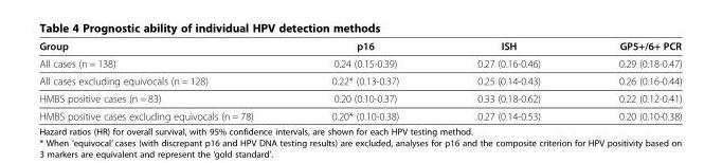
<table><thead><tr><td>Group</td><td>p16</td><td>ISH</td><td>GP5+/6+ PCR</td></tr></thead><tbody><tr><td>All cases (n = 138)</td><td>0.24 (0.15-0.39)</td><td>0.27 (0.16-0.46)</td><td>0.29 (0.18-0.47)</td></tr><tr><td>All cases excluding equivocals (n = 128)</td><td>0.22* (0.13-0.37)</td><td>0.25 (0.14-0.43)</td><td>0.26 (0.16-0.44)</td></tr><tr><td>HMBS positive cases (n = 83)</td><td>0.20 (0.10-0.37)</td><td>0.33 (0.18-0.62)</td><td>0.22 (0.12-0.41)</td></tr><tr><td>HMBS positive cases excluding equivocals (n = 78)</td><td>0.20* (0.10-0.38)</td><td>0.27 (0.14-0.53)</td><td>0.20 (0.10-0.38)</td></tr></tbody></table>